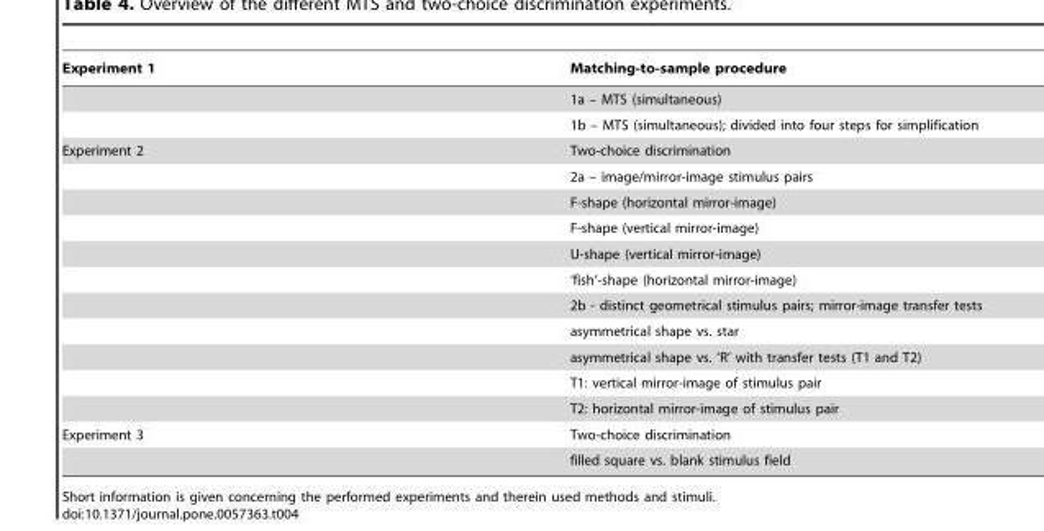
<table><thead><tr><td>Experiment 1</td><td>Matching-to-sample procedure</td></tr></thead><tbody><tr><td></td><td>1a – MTS (simultaneous)</td></tr><tr><td></td><td>1b – MTS (simultaneous); divided into four steps for simplification</td></tr><tr><td rowspan="11">Experiment 2</td><td>Two-choice discrimination</td></tr><tr><td>2a – image/mirror-image stimulus pairs</td></tr><tr><td>F-shape (horizontal mirror-image)</td></tr><tr><td>F-shape (vertical mirror-image)</td></tr><tr><td>U-shape (vertical mirror-image)</td></tr><tr><td>‘fish’-shape (horizontal mirror-image)</td></tr><tr><td>2b - distinct geometrical stimulus pairs; mirror-image transfer tests</td></tr><tr><td>asymmetrical shape vs. star</td></tr><tr><td>asymmetrical shape vs. ‘R’ with transfer tests (T1 and T2)</td></tr><tr><td>T1: vertical mirror-image of stimulus pair</td></tr><tr><td>T2: horizontal mirror-image of stimulus pair</td></tr><tr><td rowspan="2">Experiment 3</td><td>Two-choice discrimination</td></tr><tr><td>filled square vs. blank stimulus field</td></tr></tbody></table>